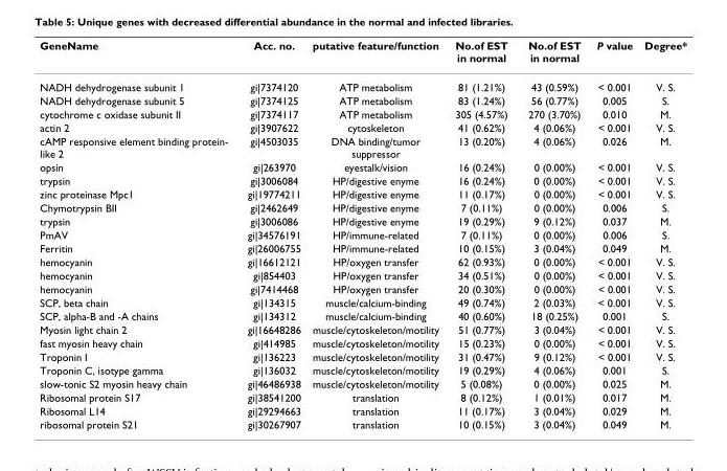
<table><thead><tr><td>GeneName</td><td>Acc. no.</td><td>putative feature/function</td><td>No.of EST in normal</td><td>No.of EST in normal</td><td>P value</td><td>Degree*</td></tr></thead><tbody><tr><td>NADH dehydrogenase subunit 1</td><td>gi|7374120</td><td>ATP metabolism</td><td>81 (1.21%)</td><td>43 (0.59%)</td><td>&lt; 0.001</td><td>V. S.</td></tr><tr><td>NADH dehydrogenase subunit 5</td><td>gi|7374125</td><td>ATP metabolism</td><td>83 (1.24%)</td><td>56 (0.77%)</td><td>0.005</td><td>S.</td></tr><tr><td>cytochrome c oxidase subunit II</td><td>gi|7374117</td><td>ATP metabolism</td><td>305 (4.57%)</td><td>270 (3.70%)</td><td>0.010</td><td>M.</td></tr><tr><td>actin 2</td><td>gi|3907622</td><td>cytoskeleton</td><td>41 (0.62%)</td><td>4 (0.06%)</td><td>&lt; 0.001</td><td>V. S.</td></tr><tr><td>cAMP responsive element binding protein- like 2</td><td>gi|4503035</td><td>DNA binding/tumor suppressor</td><td>13 (0.20%)</td><td>4 (0.06%)</td><td>0.026</td><td>M.</td></tr><tr><td>opsin</td><td>gi|263970</td><td>eyestalk/vision</td><td>16 (0.24%)</td><td>0 (0.00%)</td><td>&lt; 0.001</td><td>V. S.</td></tr><tr><td>trypsin</td><td>gi|3006084</td><td>HP/digestive enyme</td><td>16 (0.24%)</td><td>0 (0.00%)</td><td>&lt; 0.001</td><td>V. S.</td></tr><tr><td>zinc proteinase Mpc1</td><td>gi|19774211</td><td>HP/digestive enyme</td><td>11 (0.17%)</td><td>0 (0.00%)</td><td>&lt; 0.001</td><td>V. S.</td></tr><tr><td>Chymotrypsin BII</td><td>gi|2462649</td><td>HP/digestive enyme</td><td>7 (0.11%)</td><td>0 (0.00%)</td><td>0.006</td><td>S.</td></tr><tr><td>trypsin</td><td>gi|3006086</td><td>HP/digestive enyme</td><td>19 (0.29%)</td><td>9 (0.12%)</td><td>0.037</td><td>M.</td></tr><tr><td>PmAV</td><td>gi|34576191</td><td>HP/immune-related</td><td>7 (0.11%)</td><td>0 (0.00%)</td><td>0.006</td><td>S.</td></tr><tr><td>Ferritin</td><td>gi|26006755</td><td>HP/immune-related</td><td>10 (0.15%)</td><td>3 (0.04%)</td><td>0.049</td><td>M.</td></tr><tr><td>hemocyanin</td><td>gi|16612121</td><td>HP/oxygen transfer</td><td>62 (0.93%)</td><td>0 (0.00%)</td><td>&lt; 0.001</td><td>V. S.</td></tr><tr><td>hemocyanin</td><td>gi|854403</td><td>HP/oxygen transfer</td><td>34 (0.51%)</td><td>0 (0.00%)</td><td>&lt; 0.001</td><td>V. S.</td></tr><tr><td>hemocyanin</td><td>gi|7414468</td><td>HP/oxygen transfer</td><td>20 (0.30%)</td><td>0 (0.00%)</td><td>&lt; 0.001</td><td>V. S.</td></tr><tr><td>SCP, beta chain</td><td>gi|134315</td><td>muscle/calcium-binding</td><td>49 (0.74%)</td><td>2 (0.03%)</td><td>&lt; 0.001</td><td>V. S.</td></tr><tr><td>SCP, alpha-B and -A chains</td><td>gi|134312</td><td>muscle/calcium-binding</td><td>40 (0.60%)</td><td>18 (0.25%)</td><td>0.001</td><td>S.</td></tr><tr><td>Myosin light chain 2</td><td>gi|16648286</td><td>muscle/cytoskeleton/motility</td><td>51 (0.77%)</td><td>3 (0.04%)</td><td>&lt; 0.001</td><td>V. S.</td></tr><tr><td>fast myosin heavy chain</td><td>gi|414985</td><td>muscle/cytoskeleton/motility</td><td>15 (0.23%)</td><td>0 (0.00%)</td><td>&lt; 0.001</td><td>V. S.</td></tr><tr><td>Troponin I</td><td>gi|136223</td><td>muscle/cytoskeleton/motility</td><td>31 (0.47%)</td><td>9 (0.12%)</td><td>&lt; 0.001</td><td>V. S.</td></tr><tr><td>Troponin C, isotype gamma</td><td>gi|136032</td><td>muscle/cytoskeleton/motility</td><td>19 (0.29%)</td><td>4 (0.06%)</td><td>0.001</td><td>S.</td></tr><tr><td>slow-tonic S2 myosin heavy chain</td><td>gi|46486938</td><td>muscle/cytoskeleton/motility</td><td>5 (0.08%)</td><td>0 (0.00%)</td><td>0.025</td><td>M.</td></tr><tr><td>Ribosomal protein S17</td><td>gi|38541200</td><td>translation</td><td>8 (0.12%)</td><td>1 (0.01%)</td><td>0.017</td><td>M.</td></tr><tr><td>Ribosomal L14</td><td>gi|29294663</td><td>translation</td><td>11 (0.17%)</td><td>3 (0.04%)</td><td>0.029</td><td>M.</td></tr><tr><td>ribosomal protein S21</td><td>gi|30267907</td><td>translation</td><td>10 (0.15%)</td><td>3 (0.04%)</td><td>0.049</td><td>M.</td></tr></tbody></table>